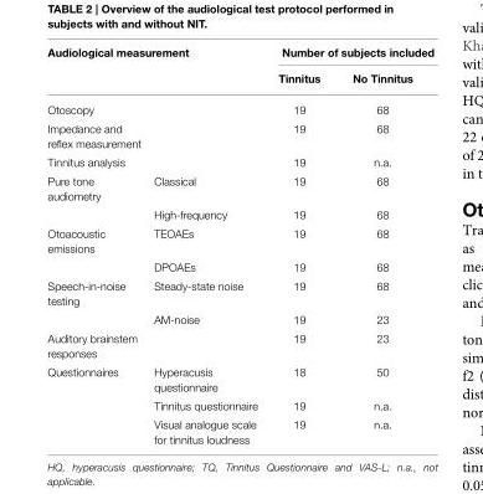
<table><thead><tr><td colspan="2">Audiological measurement</td><td colspan="2">Number of subjects included</td></tr><tr><td></td><td></td><td>Tinnitus</td><td>No Tinnitus</td></tr></thead><tbody><tr><td>Otoscopy</td><td></td><td>19</td><td>68</td></tr><tr><td>Impedance and reflex measurement</td><td></td><td>19</td><td>68</td></tr><tr><td>Tinnitus analysis</td><td></td><td>19</td><td>n.a.</td></tr><tr><td rowspan="2">Pure tone audiometry</td><td>Classical</td><td>19</td><td>68</td></tr><tr><td>High-frequency</td><td>19</td><td>68</td></tr><tr><td rowspan="2">Otoacoustic emissions</td><td>TEOAEs</td><td>19</td><td>68</td></tr><tr><td>DPOAEs</td><td>19</td><td>68</td></tr><tr><td rowspan="2">Speech-in-noise testing</td><td>Steady-state noise</td><td>19</td><td>68</td></tr><tr><td>AM-noise</td><td>19</td><td>23</td></tr><tr><td>Auditory brainstem responses</td><td></td><td>19</td><td>23</td></tr><tr><td rowspan="3">Questionnaires</td><td>Hyperacusis questionnaire</td><td>18</td><td>50</td></tr><tr><td>Tinnitus questionnaire</td><td>19</td><td>n.a.</td></tr><tr><td>Visual analogue scale for tinnitus loudness</td><td>19</td><td>n.a.</td></tr></tbody></table>